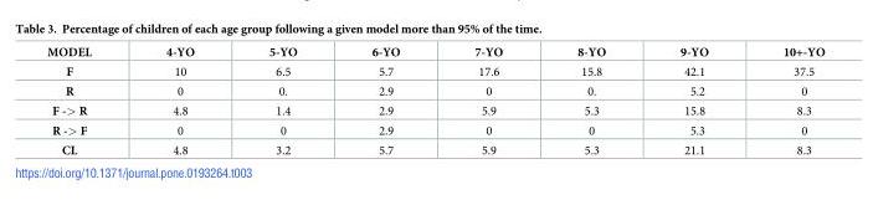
<table><thead><tr><td>MODEL</td><td>4-YO</td><td>5-YO</td><td>6-YO</td><td>7-YO</td><td>8-YO</td><td>9-YO</td><td>10+-YO</td></tr></thead><tbody><tr><td>F</td><td>10</td><td>6.5</td><td>5.7</td><td>17.6</td><td>15.8</td><td>42.1</td><td>37.5</td></tr><tr><td>R</td><td>0</td><td>0.</td><td>2.9</td><td>0</td><td>0.</td><td>5.2</td><td>0</td></tr><tr><td>F -&gt; R</td><td>4.8</td><td>1.4</td><td>2.9</td><td>5.9</td><td>5.3</td><td>15.8</td><td>8.3</td></tr><tr><td>R -&gt; F</td><td>0</td><td>0</td><td>2.9</td><td>0</td><td>0</td><td>5.3</td><td>0</td></tr><tr><td>CL</td><td>4.8</td><td>3.2</td><td>5.7</td><td>5.9</td><td>5.3</td><td>21.1</td><td>8.3</td></tr></tbody></table>